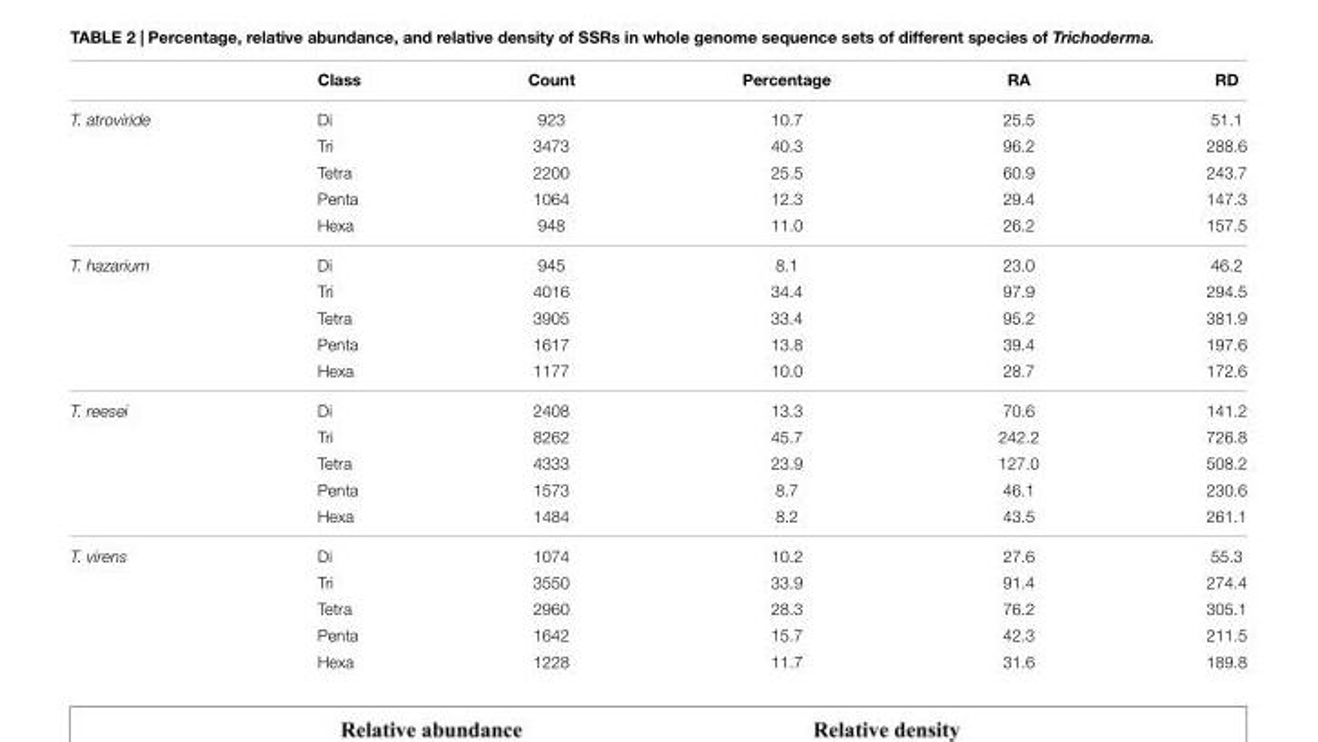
<table><thead><tr><td></td><td>Class</td><td>Count</td><td>Percentage</td><td>RA</td><td>RD</td></tr></thead><tbody><tr><td rowspan="5">T. atroviride</td><td>Di</td><td>923</td><td>10.7</td><td>25.5</td><td>51.1</td></tr><tr><td>Tri</td><td>3473</td><td>40.3</td><td>96.2</td><td>288.6</td></tr><tr><td>Tetra</td><td>2200</td><td>25.5</td><td>60.9</td><td>243.7</td></tr><tr><td>Penta</td><td>1064</td><td>12.3</td><td>29.4</td><td>147.3</td></tr><tr><td>Hexa</td><td>948</td><td>11.0</td><td>26.2</td><td>157.5</td></tr><tr><td rowspan="5">T. hazarium</td><td>Di</td><td>945</td><td>8.1</td><td>23.0</td><td>46.2</td></tr><tr><td>Tri</td><td>4016</td><td>34.4</td><td>97.9</td><td>294.5</td></tr><tr><td>Tetra</td><td>3905</td><td>33.4</td><td>95.2</td><td>381.9</td></tr><tr><td>Penta</td><td>1617</td><td>13.8</td><td>39.4</td><td>197.6</td></tr><tr><td>Hexa</td><td>1177</td><td>10.0</td><td>28.7</td><td>172.6</td></tr><tr><td rowspan="5">T. reesei</td><td>Di</td><td>2408</td><td>13.3</td><td>70.6</td><td>141.2</td></tr><tr><td>Tri</td><td>8262</td><td>45.7</td><td>242.2</td><td>726.8</td></tr><tr><td>Tetra</td><td>4333</td><td>23.9</td><td>127.0</td><td>508.2</td></tr><tr><td>Penta</td><td>1573</td><td>8.7</td><td>46.1</td><td>230.6</td></tr><tr><td>Hexa</td><td>1484</td><td>8.2</td><td>43.5</td><td>261.1</td></tr><tr><td rowspan="5">T. virens</td><td>Di</td><td>1074</td><td>10.2</td><td>27.6</td><td>55.3</td></tr><tr><td>Tri</td><td>3550</td><td>33.9</td><td>91.4</td><td>274.4</td></tr><tr><td>Tetra</td><td>2960</td><td>28.3</td><td>76.2</td><td>305.1</td></tr><tr><td>Penta</td><td>1642</td><td>15.7</td><td>42.3</td><td>211.5</td></tr><tr><td>Hexa</td><td>1228</td><td>11.7</td><td>31.6</td><td>189.8</td></tr></tbody></table>